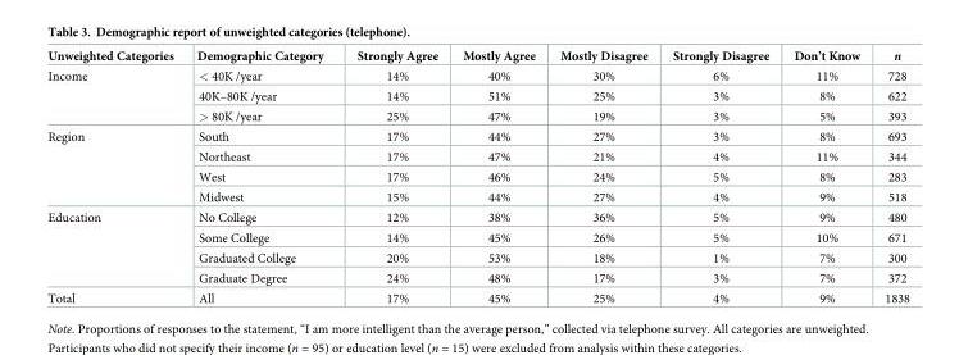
<table><thead><tr><td>Unweighted Categories</td><td>Demographic Category</td><td>Strongly Agree</td><td>Mostly Agree</td><td>Mostly Disagree</td><td>Strongly Disagree</td><td>Don’t Know</td><td>n</td></tr></thead><tbody><tr><td rowspan="3">Income</td><td>&lt; 40K /year</td><td>14%</td><td>40%</td><td>30%</td><td>6%</td><td>11%</td><td>728</td></tr><tr><td>40K–80K /year</td><td>14%</td><td>51%</td><td>25%</td><td>3%</td><td>8%</td><td>622</td></tr><tr><td>&gt; 80K /year</td><td>25%</td><td>47%</td><td>19%</td><td>3%</td><td>5%</td><td>393</td></tr><tr><td rowspan="4">Region</td><td>South</td><td>17%</td><td>44%</td><td>27%</td><td>3%</td><td>8%</td><td>693</td></tr><tr><td>Northeast</td><td>17%</td><td>47%</td><td>21%</td><td>4%</td><td>11%</td><td>344</td></tr><tr><td>West</td><td>17%</td><td>46%</td><td>24%</td><td>5%</td><td>8%</td><td>283</td></tr><tr><td>Midwest</td><td>15%</td><td>44%</td><td>27%</td><td>4%</td><td>9%</td><td>518</td></tr><tr><td rowspan="4">Education</td><td>No College</td><td>12%</td><td>38%</td><td>36%</td><td>5%</td><td>9%</td><td>480</td></tr><tr><td>Some College</td><td>14%</td><td>45%</td><td>26%</td><td>5%</td><td>10%</td><td>671</td></tr><tr><td>Graduated College</td><td>20%</td><td>53%</td><td>18%</td><td>1%</td><td>7%</td><td>300</td></tr><tr><td>Graduate Degree</td><td>24%</td><td>48%</td><td>17%</td><td>3%</td><td>7%</td><td>372</td></tr><tr><td>Total</td><td>All</td><td>17%</td><td>45%</td><td>25%</td><td>4%</td><td>9%</td><td>1838</td></tr></tbody></table>